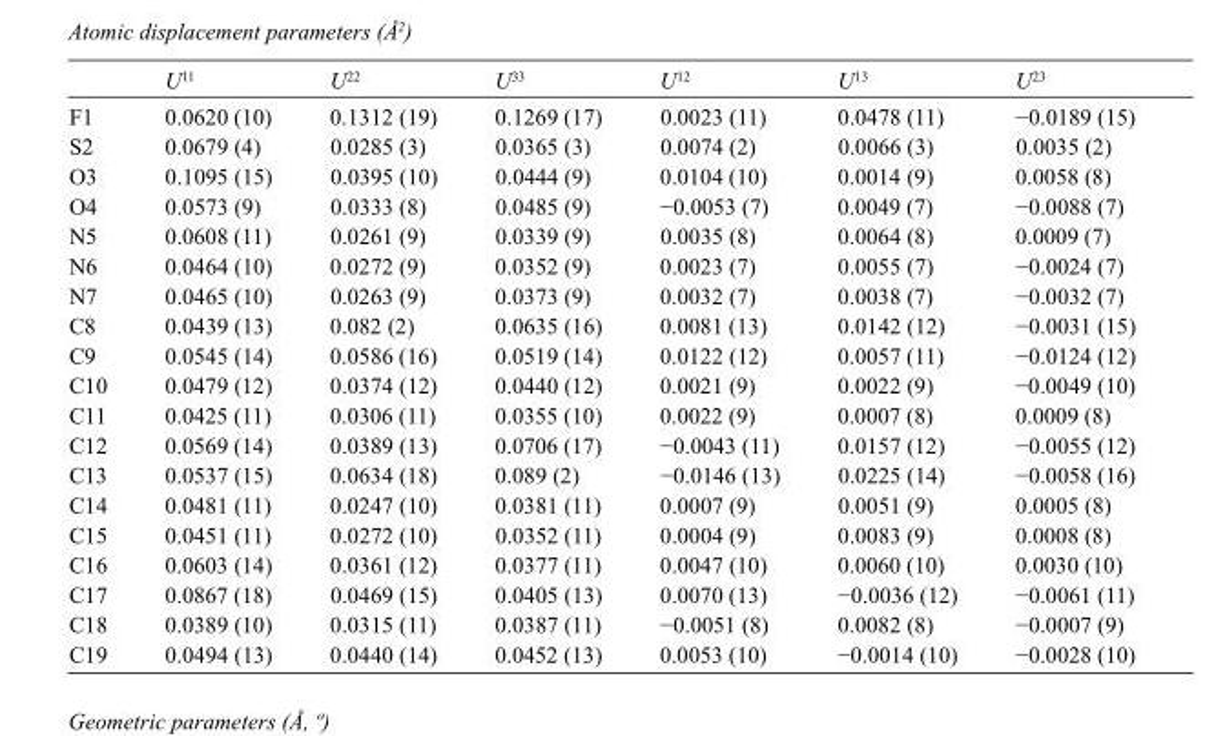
<table><thead><tr><td></td><td>U<sup>11</sup></td><td>U<sup>22</sup></td><td>U<sup>33</sup></td><td>U<sup>12</sup></td><td>U<sup>13</sup></td><td>U<sup>23</sup></td></tr></thead><tbody><tr><td>F1</td><td>0.0620 (10)</td><td>0.1312 (19)</td><td>0.1269 (17)</td><td>0.0023 (11)</td><td>0.0478 (11)</td><td>−0.0189 (15)</td></tr><tr><td>S2</td><td>0.0679 (4)</td><td>0.0285 (3)</td><td>0.0365 (3)</td><td>0.0074 (2)</td><td>0.0066 (3)</td><td>0.0035 (2)</td></tr><tr><td>O3</td><td>0.1095 (15)</td><td>0.0395 (10)</td><td>0.0444 (9)</td><td>0.0104 (10)</td><td>0.0014 (9)</td><td>0.0058 (8)</td></tr><tr><td>O4</td><td>0.0573 (9)</td><td>0.0333 (8)</td><td>0.0485 (9)</td><td>−0.0053 (7)</td><td>0.0049 (7)</td><td>−0.0088 (7)</td></tr><tr><td>N5</td><td>0.0608 (11)</td><td>0.0261 (9)</td><td>0.0339 (9)</td><td>0.0035 (8)</td><td>0.0064 (8)</td><td>0.0009 (7)</td></tr><tr><td>N6</td><td>0.0464 (10)</td><td>0.0272 (9)</td><td>0.0352 (9)</td><td>0.0023 (7)</td><td>0.0055 (7)</td><td>−0.0024 (7)</td></tr><tr><td>N7</td><td>0.0465 (10)</td><td>0.0263 (9)</td><td>0.0373 (9)</td><td>0.0032 (7)</td><td>0.0038 (7)</td><td>−0.0032 (7)</td></tr><tr><td>C8</td><td>0.0439 (13)</td><td>0.082 (2)</td><td>0.0635 (16)</td><td>0.0081 (13)</td><td>0.0142 (12)</td><td>−0.0031 (15)</td></tr><tr><td>C9</td><td>0.0545 (14)</td><td>0.0586 (16)</td><td>0.0519 (14)</td><td>0.0122 (12)</td><td>0.0057 (11)</td><td>−0.0124 (12)</td></tr><tr><td>C10</td><td>0.0479 (12)</td><td>0.0374 (12)</td><td>0.0440 (12)</td><td>0.0021 (9)</td><td>0.0022 (9)</td><td>−0.0049 (10)</td></tr><tr><td>C11</td><td>0.0425 (11)</td><td>0.0306 (11)</td><td>0.0355 (10)</td><td>0.0022 (9)</td><td>0.0007 (8)</td><td>0.0009 (8)</td></tr><tr><td>C12</td><td>0.0569 (14)</td><td>0.0389 (13)</td><td>0.0706 (17)</td><td>−0.0043 (11)</td><td>0.0157 (12)</td><td>−0.0055 (12)</td></tr><tr><td>C13</td><td>0.0537 (15)</td><td>0.0634 (18)</td><td>0.089 (2)</td><td>−0.0146 (13)</td><td>0.0225 (14)</td><td>−0.0058 (16)</td></tr><tr><td>C14</td><td>0.0481 (11)</td><td>0.0247 (10)</td><td>0.0381 (11)</td><td>0.0007 (9)</td><td>0.0051 (9)</td><td>0.0005 (8)</td></tr><tr><td>C15</td><td>0.0451 (11)</td><td>0.0272 (10)</td><td>0.0352 (11)</td><td>0.0004 (9)</td><td>0.0083 (9)</td><td>0.0008 (8)</td></tr><tr><td>C16</td><td>0.0603 (14)</td><td>0.0361 (12)</td><td>0.0377 (11)</td><td>0.0047 (10)</td><td>0.0060 (10)</td><td>0.0030 (10)</td></tr><tr><td>C17</td><td>0.0867 (18)</td><td>0.0469 (15)</td><td>0.0405 (13)</td><td>0.0070 (13)</td><td>−0.0036 (12)</td><td>−0.0061 (11)</td></tr><tr><td>C18</td><td>0.0389 (10)</td><td>0.0315 (11)</td><td>0.0387 (11)</td><td>−0.0051 (8)</td><td>0.0082 (8)</td><td>−0.0007 (9)</td></tr><tr><td>C19</td><td>0.0494 (13)</td><td>0.0440 (14)</td><td>0.0452 (13)</td><td>0.0053 (10)</td><td>−0.0014 (10)</td><td>−0.0028 (10)</td></tr></tbody></table>